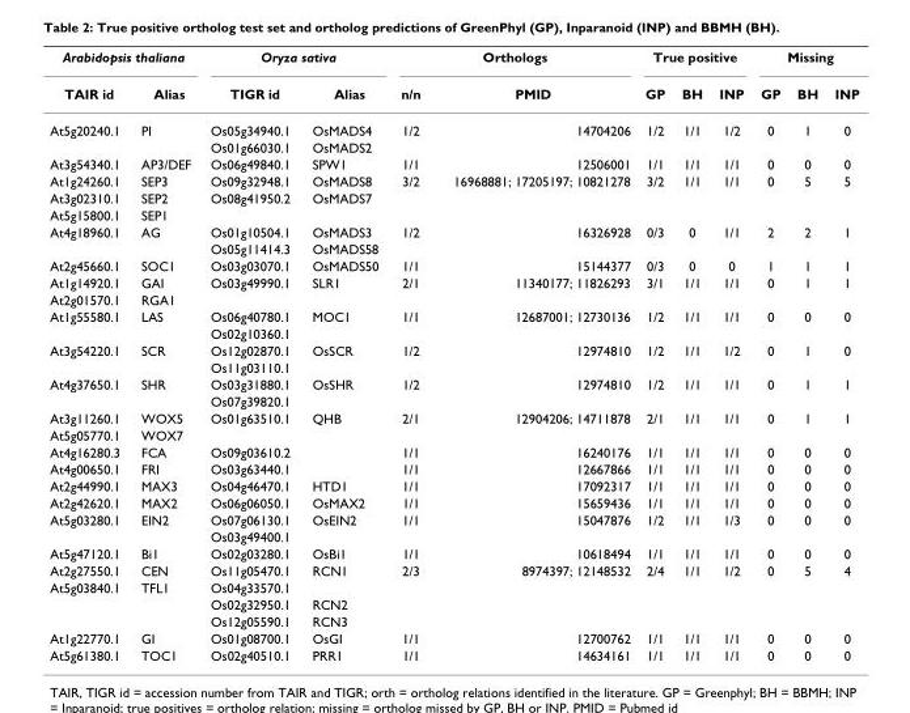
<table><thead><tr><td colspan="2">Arabidopsis thaliana</td><td colspan="2">Oryza sativa</td><td colspan="2">Orthologs</td><td colspan="3">True positive</td><td colspan="3">Missing</td></tr><tr><td>TAIR id</td><td>Alias</td><td>TIGR id</td><td>Alias</td><td>n/n</td><td>PMID</td><td>GP</td><td>BH</td><td>INP</td><td>GP</td><td>BH</td><td>INP</td></tr></thead><tbody><tr><td rowspan="2">At5g20240.1</td><td>PI</td><td>Os05g34940.1</td><td>OsMADS4</td><td>1/2</td><td>14704206</td><td>1/2</td><td>1/1</td><td>1/2</td><td>0</td><td>1</td><td>0</td></tr><tr><td></td><td>Os01g66030.1</td><td>OsMADS2</td><td></td><td></td><td></td><td></td><td></td><td></td><td></td><td></td></tr><tr><td>At3g54340.1</td><td>AP3/DEF</td><td>Os06g49840.1</td><td>SPW1</td><td>1/1</td><td>12506001</td><td>1/1</td><td>1/1</td><td>1/1</td><td>0</td><td>0</td><td>0</td></tr><tr><td>At1g24260.1</td><td>SEP3</td><td>Os09g32948.1</td><td>OsMADS8</td><td>3/2</td><td>16968881; 17205197; 10821278</td><td>3/2</td><td>1/1</td><td>1/1</td><td>0</td><td>5</td><td>5</td></tr><tr><td>At3g02310.1</td><td>SEP2</td><td>Os08g41950.2</td><td>OsMADS7</td><td></td><td></td><td></td><td></td><td></td><td></td><td></td><td></td></tr><tr><td>At5g15800.1</td><td>SEP1</td><td></td><td></td><td></td><td></td><td></td><td></td><td></td><td></td><td></td><td></td></tr><tr><td rowspan="2">At4g18960.1</td><td>AG</td><td>Os01g10504.1</td><td>OsMADS3</td><td>1/2</td><td>16326928</td><td>0/3</td><td>0</td><td>1/1</td><td>2</td><td>2</td><td>1</td></tr><tr><td></td><td>Os05g11414.3</td><td>OsMADS58</td><td></td><td></td><td></td><td></td><td></td><td></td><td></td><td></td></tr><tr><td>At2g45660.1</td><td>SOC1</td><td>Os03g03070.1</td><td>OsMADS50</td><td>1/1</td><td>15144377</td><td>0/3</td><td>0</td><td>0</td><td>1</td><td>1</td><td>1</td></tr><tr><td>At1g14920.1</td><td>GAI</td><td>Os03g49990.1</td><td>SLR1</td><td>2/1</td><td>11340177; 11826293</td><td>3/1</td><td>1/1</td><td>1/1</td><td>0</td><td>1</td><td>1</td></tr><tr><td>At2g01570.1</td><td>RGA1</td><td></td><td></td><td></td><td></td><td></td><td></td><td></td><td></td><td></td><td></td></tr><tr><td rowspan="2">At1g55580.1</td><td>LAS</td><td>Os06g40780.1</td><td>MOC1</td><td>1/1</td><td>12687001; 12730136</td><td>1/2</td><td>1/1</td><td>1/1</td><td>0</td><td>0</td><td>0</td></tr><tr><td></td><td>Os02g10360.1</td><td></td><td></td><td></td><td></td><td></td><td></td><td></td><td></td><td></td></tr><tr><td rowspan="2">At3g54220.1</td><td>SCR</td><td>Os12g02870.1</td><td>OsSCR</td><td>1/2</td><td>12974810</td><td>1/2</td><td>1/1</td><td>1/2</td><td>0</td><td>1</td><td>0</td></tr><tr><td></td><td>Os11g03110.1</td><td></td><td></td><td></td><td></td><td></td><td></td><td></td><td></td><td></td></tr><tr><td rowspan="2">At4g37650.1</td><td>SHR</td><td>Os03g31880.1</td><td>OsSHR</td><td>1/2</td><td>12974810</td><td>1/2</td><td>1/1</td><td>1/1</td><td>0</td><td>1</td><td>1</td></tr><tr><td></td><td>Os07g39820.1</td><td></td><td></td><td></td><td></td><td></td><td></td><td></td><td></td><td></td></tr><tr><td>At3g11260.1</td><td>WOX5</td><td>Os01g63510.1</td><td>QHB</td><td>2/1</td><td>12904206; 14711878</td><td>2/1</td><td>1/1</td><td>1/1</td><td>0</td><td>1</td><td>1</td></tr><tr><td>At5g05770.1</td><td>WOX7</td><td></td><td></td><td></td><td></td><td></td><td></td><td></td><td></td><td></td><td></td></tr><tr><td>At4g16280.3</td><td>FCA</td><td>Os09g03610.2</td><td></td><td>1/1</td><td>16240176</td><td>1/1</td><td>1/1</td><td>1/1</td><td>0</td><td>0</td><td>0</td></tr><tr><td>At4g00650.1</td><td>FRI</td><td>Os03g63440.1</td><td></td><td>1/1</td><td>12667866</td><td>1/1</td><td>1/1</td><td>1/1</td><td>0</td><td>0</td><td>0</td></tr><tr><td>At2g44990.1</td><td>MAX3</td><td>Os04g46470.1</td><td>HTD1</td><td>1/1</td><td>17092317</td><td>1/1</td><td>1/1</td><td>1/1</td><td>0</td><td>0</td><td>0</td></tr><tr><td>At2g42620.1</td><td>MAX2</td><td>Os06g06050.1</td><td>OsMAX2</td><td>1/1</td><td>15659436</td><td>1/1</td><td>1/1</td><td>1/1</td><td>0</td><td>0</td><td>0</td></tr><tr><td rowspan="2">At5g03280.1</td><td>EIN2</td><td>Os07g06130.1</td><td>OsEIN2</td><td>1/1</td><td>15047876</td><td>1/2</td><td>1/1</td><td>1/3</td><td>0</td><td>0</td><td>0</td></tr><tr><td></td><td>Os03g49400.1</td><td></td><td></td><td></td><td></td><td></td><td></td><td></td><td></td><td></td></tr><tr><td>At5g47120.1</td><td>Bi1</td><td>Os02g03280.1</td><td>OsBi1</td><td>1/1</td><td>10618494</td><td>1/1</td><td>1/1</td><td>1/1</td><td>0</td><td>0</td><td>0</td></tr><tr><td>At2g27550.1</td><td>CEN</td><td>Os11g05470.1</td><td>RCN1</td><td>2/3</td><td>8974397; 12148532</td><td>2/4</td><td>1/1</td><td>1/2</td><td>0</td><td>5</td><td>4</td></tr><tr><td rowspan="3">At5g03840.1</td><td>TFL1</td><td>Os04g33570.1</td><td></td><td></td><td></td><td></td><td></td><td></td><td></td><td></td><td></td></tr><tr><td></td><td>Os02g32950.1</td><td>RCN2</td><td></td><td></td><td></td><td></td><td></td><td></td><td></td><td></td></tr><tr><td></td><td>Os12g05590.1</td><td>RCN3</td><td></td><td></td><td></td><td></td><td></td><td></td><td></td><td></td></tr><tr><td>At1g22770.1</td><td>GI</td><td>Os01g08700.1</td><td>OsGI</td><td>1/1</td><td>12700762</td><td>1/1</td><td>1/1</td><td>1/1</td><td>0</td><td>0</td><td>0</td></tr><tr><td>At5g61380.1</td><td>TOC1</td><td>Os02g40510.1</td><td>PRR1</td><td>1/1</td><td>14634161</td><td>1/1</td><td>1/1</td><td>1/1</td><td>0</td><td>0</td><td>0</td></tr></tbody></table>